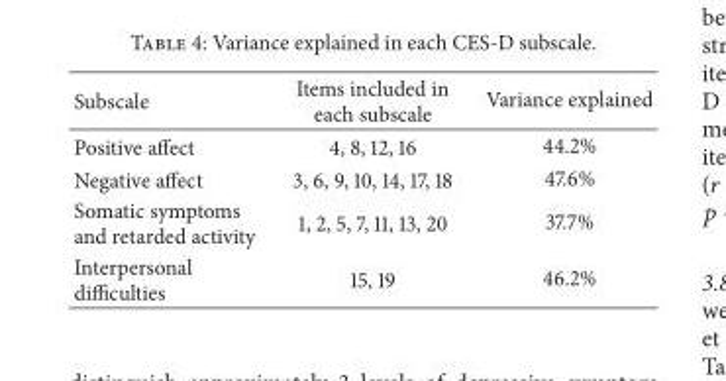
<table><thead><tr><td>Subscale</td><td>Items included in each subscale</td><td>Variance explained</td></tr></thead><tbody><tr><td>Positive affect</td><td>4, 8, 12, 16</td><td>44.2%</td></tr><tr><td>Negative affect</td><td>3, 6, 9, 10, 14, 17, 18</td><td>47.6%</td></tr><tr><td>Somatic symptoms and retarded activity</td><td>1, 2, 5, 7, 11, 13, 20</td><td>37.7%</td></tr><tr><td>Interpersonal difficulties</td><td>15, 19</td><td>46.2%</td></tr></tbody></table>